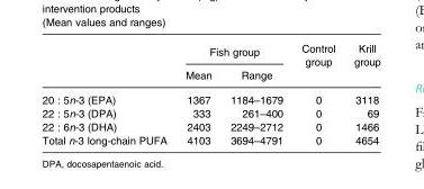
<table><thead><tr><td rowspan="2"></td><td colspan="2">Fish group</td><td rowspan="2">Control group</td><td rowspan="2">Krill group</td></tr><tr><td>Mean</td><td>Range</td></tr></thead><tbody><tr><td>20 : 5n-3 (EPA)</td><td>1367</td><td>1184–1679</td><td>0</td><td>3118</td></tr><tr><td>22 : 5n-3 (DPA)</td><td>333</td><td>261–400</td><td>0</td><td>69</td></tr><tr><td>22 : 6n-3 (DHA)</td><td>2403</td><td>2249–2712</td><td>0</td><td>1466</td></tr><tr><td>Total n-3 long-chain PUFA</td><td>4103</td><td>3694–4791</td><td>0</td><td>4654</td></tr></tbody></table>